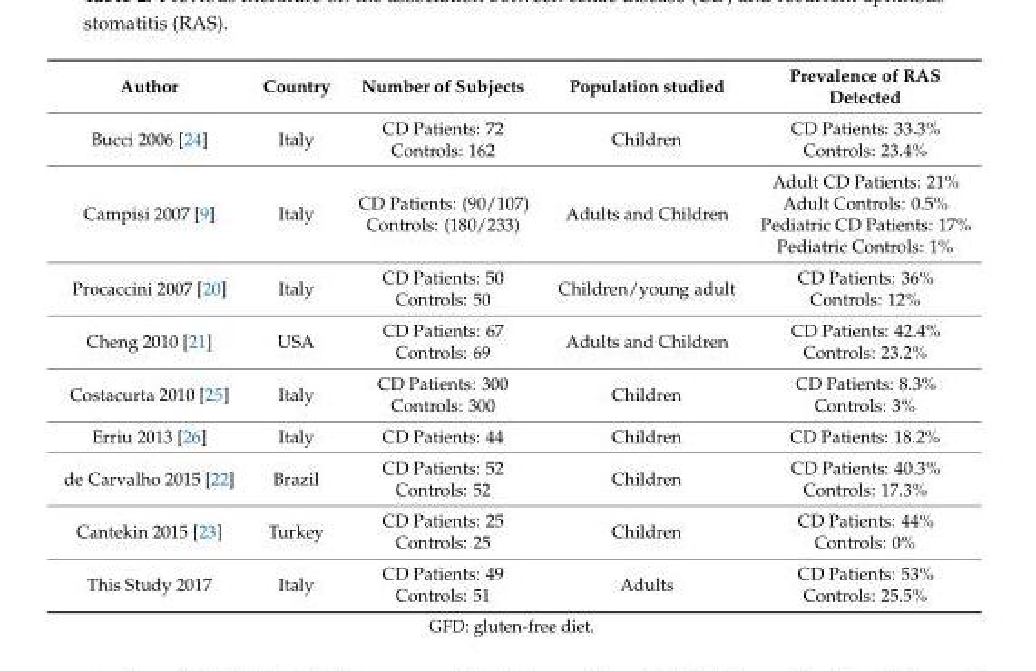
<table><thead><tr><td>Author</td><td>Country</td><td>Number of Subjects</td><td>Population studied</td><td>Prevalence of RAS Detected</td></tr></thead><tbody><tr><td>Bucci 2006 [24]</td><td>Italy</td><td>CD Patients: 72 Controls: 162</td><td>Children</td><td>CD Patients: 33.3% Controls: 23.4%</td></tr><tr><td>Campisi 2007 [9]</td><td>Italy</td><td>CD Patients: (90/107) Controls: (180/233)</td><td>Adults and Children</td><td>Adult CD Patients: 21% Adult Controls: 0.5% Pediatric CD Patients: 17% Pediatric Controls: 1%</td></tr><tr><td>Procaccini 2007 [20]</td><td>Italy</td><td>CD Patients: 50 Controls: 50</td><td>Children/young adult</td><td>CD Patients: 36% Controls: 12%</td></tr><tr><td>Cheng 2010 [21]</td><td>USA</td><td>CD Patients: 67 Controls: 69</td><td>Adults and Children</td><td>CD Patients: 42.4% Controls: 23.2%</td></tr><tr><td>Costacurta 2010 [25]</td><td>Italy</td><td>CD Patients: 300 Controls: 300</td><td>Children</td><td>CD Patients: 8.3% Controls: 3%</td></tr><tr><td>Erriu 2013 [26]</td><td>Italy</td><td>CD Patients: 44</td><td>Children</td><td>CD Patients: 18.2%</td></tr><tr><td>de Carvalho 2015 [22]</td><td>Brazil</td><td>CD Patients: 52 Controls: 52</td><td>Children</td><td>CD Patients: 40.3% Controls: 17.3%</td></tr><tr><td>Cantekin 2015 [23]</td><td>Turkey</td><td>CD Patients: 25 Controls: 25</td><td>Children</td><td>CD Patients: 44% Controls: 0%</td></tr><tr><td>This Study 2017</td><td>Italy</td><td>CD Patients: 49 Controls: 51</td><td>Adults</td><td>CD Patients: 53% Controls: 25.5%</td></tr></tbody></table>